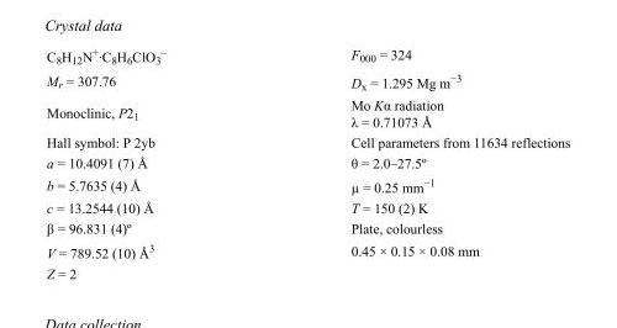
<table><tbody><tr><td>C<sub>8</sub>H<sub>12</sub>N<sup>+</sup>·C<sub>8</sub>H<sub>6</sub>ClO<sub>3</sub> <sup>–</sup></td><td>F<sub>000</sub> = 324</td></tr><tr><td>M<sub>r</sub> = 307.76</td><td>D<sub>x</sub> = 1.295 Mg m<sup>−3</sup></td></tr><tr><td>Monoclinic, P2<sub>1</sub></td><td>Mo Kα radiation λ = 0.71073 Å</td></tr><tr><td>Hall symbol: P 2yb</td><td>Cell parameters from 11634 reflections</td></tr><tr><td>a = 10.4091 (7) Å</td><td>θ = 2.0–27.5º</td></tr><tr><td>b = 5.7635 (4) Å</td><td>µ = 0.25 mm<sup>−1</sup></td></tr><tr><td>c = 13.2544 (10) Å</td><td>T = 150 (2) K</td></tr><tr><td>β = 96.831 (4)º</td><td>Plate, colourless</td></tr><tr><td>V = 789.52 (10) Å<sup>3</sup></td><td>0.45 × 0.15 × 0.08 mm</td></tr><tr><td>Z = 2</td><td></td></tr></tbody></table>